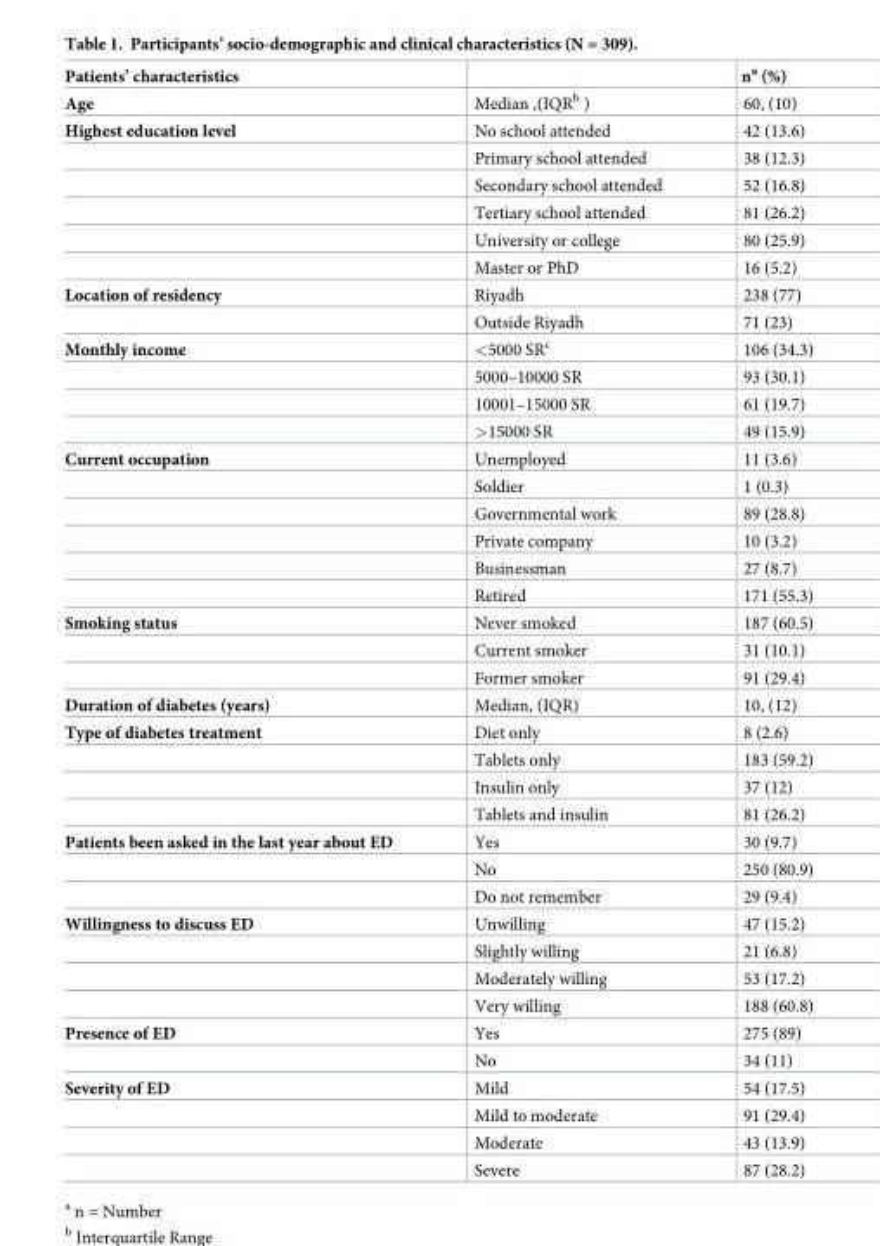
<table><thead><tr><td>Patients’ characteristics</td><td></td><td>n<sup>a</sup> (%)</td></tr></thead><tbody><tr><td>Age</td><td>Median ,(IQR<sup>b</sup> )</td><td>60, (10)</td></tr><tr><td rowspan="6">Highest education level</td><td>No school attended</td><td>42 (13.6)</td></tr><tr><td>Primary school attended</td><td>38 (12.3)</td></tr><tr><td>Secondary school attended</td><td>52 (16.8)</td></tr><tr><td>Tertiary school attended</td><td>81 (26.2)</td></tr><tr><td>University or college</td><td>80 (25.9)</td></tr><tr><td>Master or PhD</td><td>16 (5.2)</td></tr><tr><td rowspan="2">Location of residency</td><td>Riyadh</td><td>238 (77)</td></tr><tr><td>Outside Riyadh</td><td>71 (23)</td></tr><tr><td rowspan="4">Monthly income</td><td>&lt;5000 SR<sup>c</sup></td><td>106 (34.3)</td></tr><tr><td>5000–10000 SR</td><td>93 (30.1)</td></tr><tr><td>10001–15000 SR</td><td>61 (19.7)</td></tr><tr><td>&gt;15000 SR</td><td>49 (15.9)</td></tr><tr><td rowspan="6">Current occupation</td><td>Unemployed</td><td>11 (3.6)</td></tr><tr><td>Soldier</td><td>1 (0.3)</td></tr><tr><td>Governmental work</td><td>89 (28.8)</td></tr><tr><td>Private company</td><td>10 (3.2)</td></tr><tr><td>Businessman</td><td>27 (8.7)</td></tr><tr><td>Retired</td><td>171 (55.3)</td></tr><tr><td rowspan="3">Smoking status</td><td>Never smoked</td><td>187 (60.5)</td></tr><tr><td>Current smoker</td><td>31 (10.1)</td></tr><tr><td>Former smoker</td><td>91 (29.4)</td></tr><tr><td>Duration of diabetes (years)</td><td>Median, (IQR)</td><td>10, (12)</td></tr><tr><td rowspan="4">Type of diabetes treatment</td><td>Diet only</td><td>8 (2.6)</td></tr><tr><td>Tablets only</td><td>183 (59.2)</td></tr><tr><td>Insulin only</td><td>37 (12)</td></tr><tr><td>Tablets and insulin</td><td>81 (26.2)</td></tr><tr><td rowspan="3">Patients been asked in the last year about ED</td><td>Yes</td><td>30 (9.7)</td></tr><tr><td>No</td><td>250 (80.9)</td></tr><tr><td>Do not remember</td><td>29 (9.4)</td></tr><tr><td rowspan="4">Willingness to discuss ED</td><td>Unwilling</td><td>47 (15.2)</td></tr><tr><td>Slightly willing</td><td>21 (6.8)</td></tr><tr><td>Moderately willing</td><td>53 (17.2)</td></tr><tr><td>Very willing</td><td>188 (60.8)</td></tr><tr><td rowspan="2">Presence of ED</td><td>Yes</td><td>275 (89)</td></tr><tr><td>No</td><td>34 (11)</td></tr><tr><td rowspan="4">Severity of ED</td><td>Mild</td><td>54 (17.5)</td></tr><tr><td>Mild to moderate</td><td>91 (29.4)</td></tr><tr><td>Moderate</td><td>43 (13.9)</td></tr><tr><td>Severe</td><td>87 (28.2)</td></tr></tbody></table>